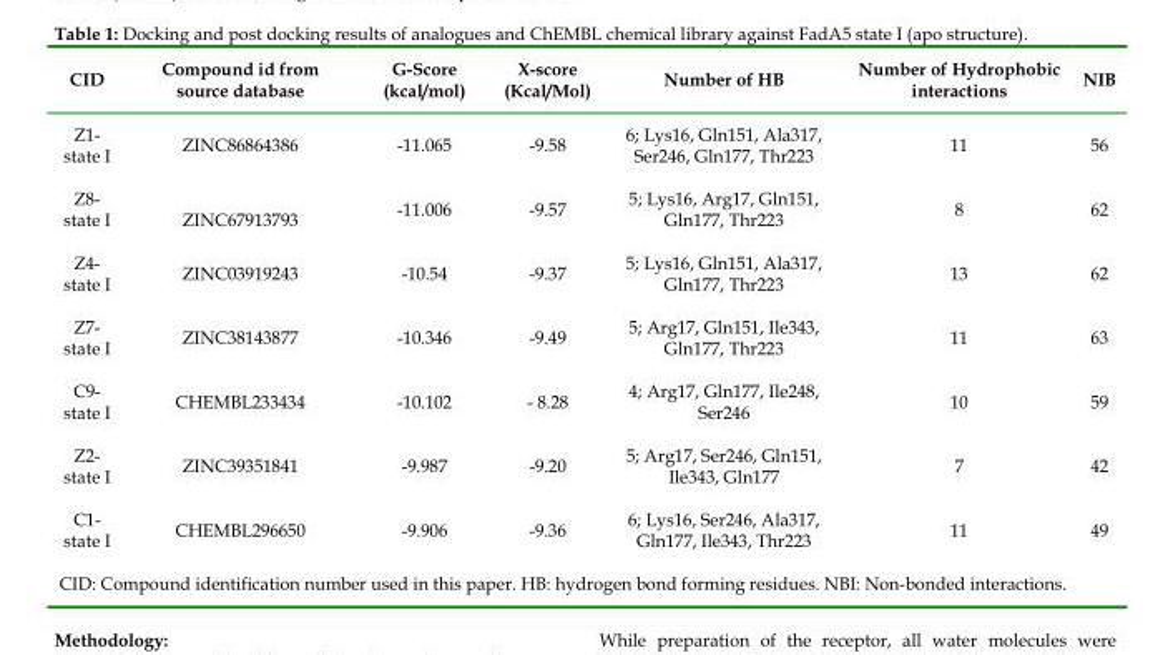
<table><thead><tr><td>CID</td><td>Compound id from source database</td><td>G-Score (kcal/mol)</td><td>X-score (Kcal/Mol)</td><td>Number of HB</td><td>Number of Hydrophobic interactions</td><td>NIB</td></tr></thead><tbody><tr><td>Z1- state I</td><td>ZINC86864386</td><td>-11.065</td><td>-9.58</td><td>6; Lys16, Gln151, Ala317, Ser246, Gln177, Thr223</td><td>11</td><td>56</td></tr><tr><td>Z8- state I</td><td>ZINC67913793</td><td>-11.006</td><td>-9.57</td><td>5; Lys16, Arg17, Gln151, Gln177, Thr223</td><td>8</td><td>62</td></tr><tr><td>Z4- state I</td><td>ZINC03919243</td><td>-10.54</td><td>-9.37</td><td>5; Lys16, Gln151, Ala317, Gln177, Thr223</td><td>13</td><td>62</td></tr><tr><td>Z7- state I</td><td>ZINC38143877</td><td>-10.346</td><td>-9.49</td><td>5; Arg17, Gln151, Ile343, Gln177, Thr223</td><td>11</td><td>63</td></tr><tr><td>C9- state I</td><td>CHEMBL233434</td><td>-10.102</td><td>- 8.28</td><td>4; Arg17, Gln177, Ile248, Ser246</td><td>10</td><td>59</td></tr><tr><td>Z2- state I</td><td>ZINC39351841</td><td>-9.987</td><td>-9.20</td><td>5; Arg17, Ser246, Gln151, Ile343, Gln177</td><td>7</td><td>42</td></tr><tr><td>C1- state I</td><td>CHEMBL296650</td><td>-9.906</td><td>-9.36</td><td>6; Lys16, Ser246, Ala317, Gln177, Ile343, Thr223</td><td>11</td><td>49</td></tr><tr><td colspan="7">CID: Compound identification number used in this paper. HB: hydrogen bond forming residues. NBI: Non-bonded interactions.</td></tr></tbody></table>